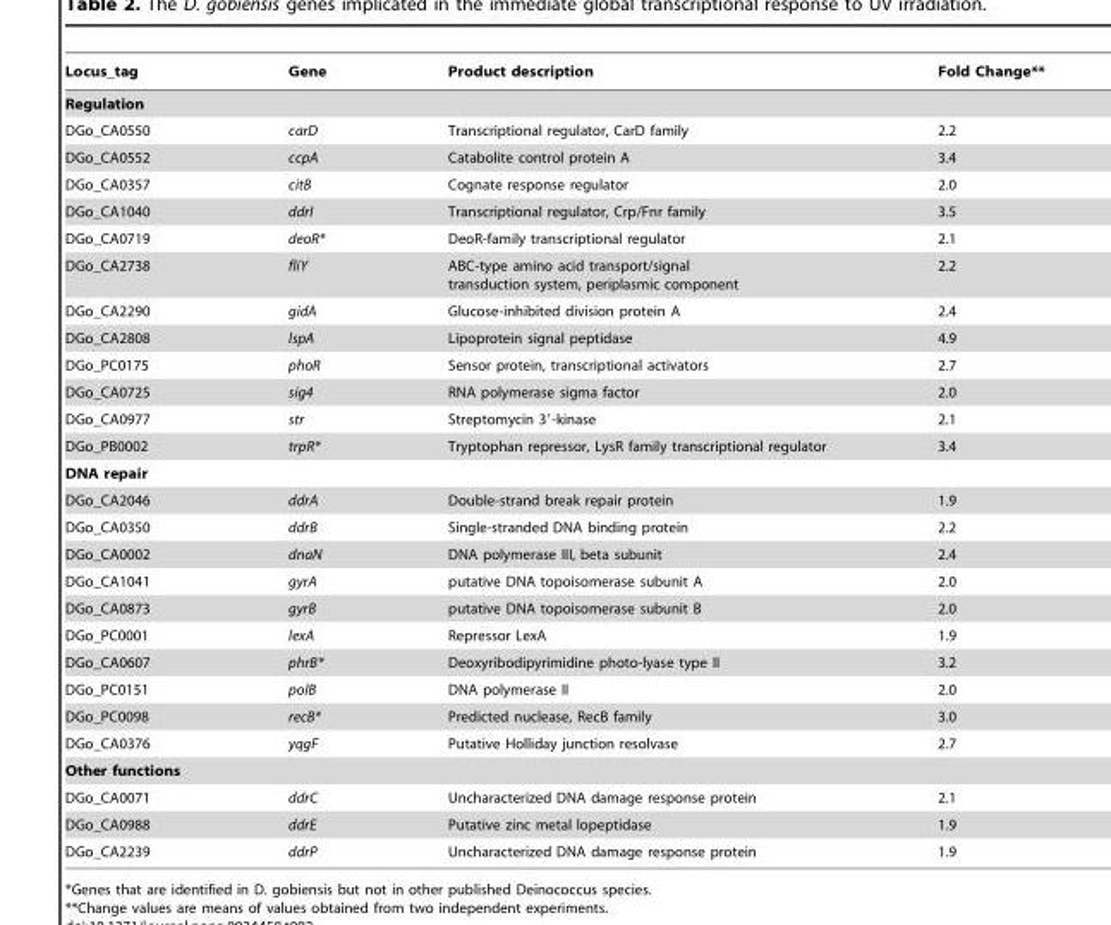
<table><thead><tr><td>Locus_tag</td><td>Gene</td><td>Product description</td><td>Fold Change**</td></tr></thead><tbody><tr><td colspan="4">Regulation</td></tr><tr><td>DGo_CA0550</td><td>carD</td><td>Transcriptional regulator, CarD family</td><td>2.2</td></tr><tr><td>DGo_CA0552</td><td>ccpA</td><td>Catabolite control protein A</td><td>3.4</td></tr><tr><td>DGo_CA0357</td><td>citB</td><td>Cognate response regulator</td><td>2.0</td></tr><tr><td>DGo_CA1040</td><td>ddrI</td><td>Transcriptional regulator, Crp/Fnr family</td><td>3.5</td></tr><tr><td>DGo_CA0719</td><td>deoR*</td><td>DeoR-family transcriptional regulator</td><td>2.1</td></tr><tr><td>DGo_CA2738</td><td>fliY</td><td>ABC-type amino acid transport/signal transduction system, periplasmic component</td><td>2.2</td></tr><tr><td>DGo_CA2290</td><td>gidA</td><td>Glucose-inhibited division protein A</td><td>2.4</td></tr><tr><td>DGo_CA2808</td><td>lspA</td><td>Lipoprotein signal peptidase</td><td>4.9</td></tr><tr><td>DGo_PC0175</td><td>phoR</td><td>Sensor protein, transcriptional activators</td><td>2.7</td></tr><tr><td>DGo_CA0725</td><td>sig4</td><td>RNA polymerase sigma factor</td><td>2.0</td></tr><tr><td>DGo_CA0977</td><td>str</td><td>Streptomycin 3′-kinase</td><td>2.1</td></tr><tr><td>DGo_PB0002</td><td>trpR*</td><td>Tryptophan repressor, LysR family transcriptional regulator</td><td>3.4</td></tr><tr><td colspan="4">DNA repair</td></tr><tr><td>DGo_CA2046</td><td>ddrA</td><td>Double-strand break repair protein</td><td>1.9</td></tr><tr><td>DGo_CA0350</td><td>ddrB</td><td>Single-stranded DNA binding protein</td><td>2.2</td></tr><tr><td>DGo_CA0002</td><td>dnaN</td><td>DNA polymerase III, beta subunit</td><td>2.4</td></tr><tr><td>DGo_CA1041</td><td>gyrA</td><td>putative DNA topoisomerase subunit A</td><td>2.0</td></tr><tr><td>DGo_CA0873</td><td>gyrB</td><td>putative DNA topoisomerase subunit B</td><td>2.0</td></tr><tr><td>DGo_PC0001</td><td>lexA</td><td>Repressor LexA</td><td>1.9</td></tr><tr><td>DGo_CA0607</td><td>phrB*</td><td>Deoxyribodipyrimidine photo-lyase type II</td><td>3.2</td></tr><tr><td>DGo_PC0151</td><td>polB</td><td>DNA polymerase II</td><td>2.0</td></tr><tr><td>DGo_PC0098</td><td>recB*</td><td>Predicted nuclease, RecB family</td><td>3.0</td></tr><tr><td>DGo_CA0376</td><td>yqgF</td><td>Putative Holliday junction resolvase</td><td>2.7</td></tr><tr><td colspan="4">Other functions</td></tr><tr><td>DGo_CA0071</td><td>ddrC</td><td>Uncharacterized DNA damage response protein</td><td>2.1</td></tr><tr><td>DGo_CA0988</td><td>ddrE</td><td>Putative zinc metal lopeptidase</td><td>1.9</td></tr><tr><td>DGo_CA2239</td><td>ddrP</td><td>Uncharacterized DNA damage response protein</td><td>1.9</td></tr></tbody></table>